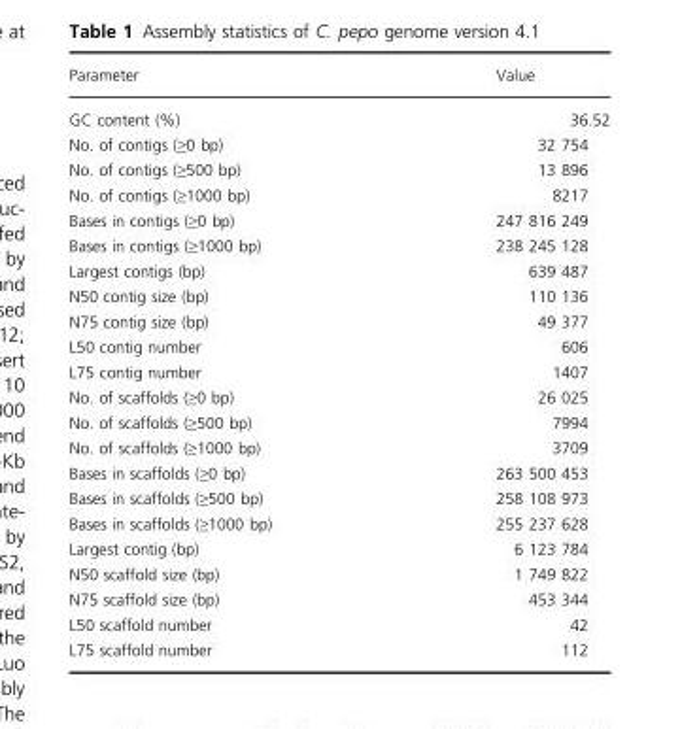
<table><thead><tr><td>Parameter</td><td>Value</td></tr></thead><tbody><tr><td>GC content (%)</td><td>36.52</td></tr><tr><td>No. of contigs (≥0 bp)</td><td>32 754</td></tr><tr><td>No. of contigs (≥500 bp)</td><td>13 896</td></tr><tr><td>No. of contigs (≥1000 bp)</td><td>8217</td></tr><tr><td>Bases in contigs (≥0 bp)</td><td>247 816 249</td></tr><tr><td>Bases in contigs (≥1000 bp)</td><td>238 245 128</td></tr><tr><td>Largest contigs (bp)</td><td>639 487</td></tr><tr><td>N50 contig size (bp)</td><td>110 136</td></tr><tr><td>N75 contig size (bp)</td><td>49 377</td></tr><tr><td>L50 contig number</td><td>606</td></tr><tr><td>L75 contig number</td><td>1407</td></tr><tr><td>No. of scaffolds (≥0 bp)</td><td>26 025</td></tr><tr><td>No. of scaffolds (≥500 bp)</td><td>7994</td></tr><tr><td>No. of scaffolds (≥1000 bp)</td><td>3709</td></tr><tr><td>Bases in scaffolds (≥0 bp)</td><td>263 500 453</td></tr><tr><td>Bases in scaffolds (≥500 bp)</td><td>258 108 973</td></tr><tr><td>Bases in scaffolds (≥1000 bp)</td><td>255 237 628</td></tr><tr><td>Largest contig (bp)</td><td>6 123 784</td></tr><tr><td>N50 scaffold size (bp)</td><td>1 749 822</td></tr><tr><td>N75 scaffold size (bp)</td><td>453 344</td></tr><tr><td>L50 scaffold number</td><td>42</td></tr><tr><td>L75 scaffold number</td><td>112</td></tr></tbody></table>